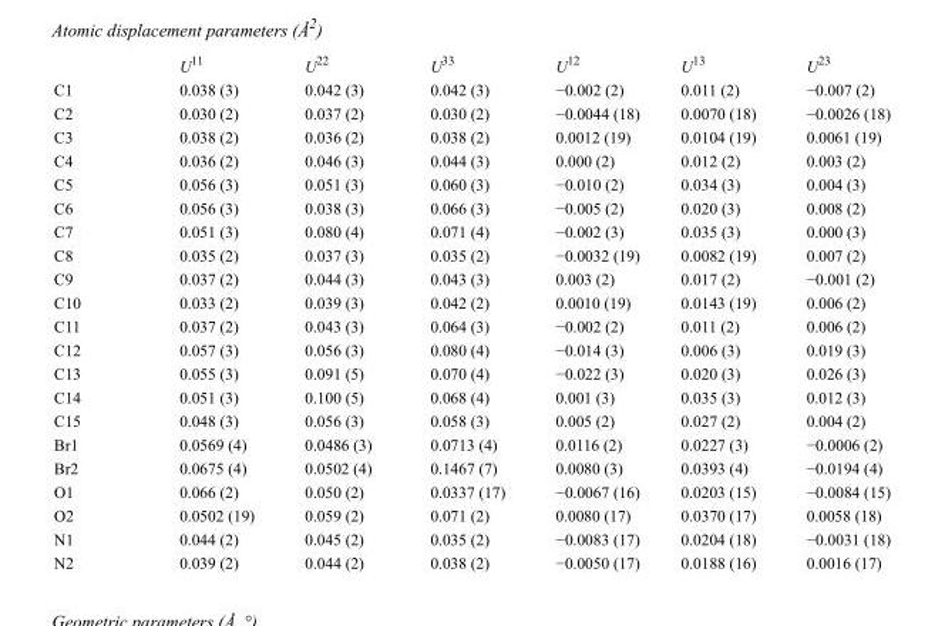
<table><thead><tr><td></td><td>U<sup>11</sup></td><td>U<sup>22</sup></td><td>U<sup>33</sup></td><td>U<sup>12</sup></td><td>U<sup>13</sup></td><td>U<sup>23</sup></td></tr></thead><tbody><tr><td>C1</td><td>0.038 (3)</td><td>0.042 (3)</td><td>0.042 (3)</td><td>−0.002 (2)</td><td>0.011 (2)</td><td>−0.007 (2)</td></tr><tr><td>C2</td><td>0.030 (2)</td><td>0.037 (2)</td><td>0.030 (2)</td><td>−0.0044 (18)</td><td>0.0070 (18)</td><td>−0.0026 (18)</td></tr><tr><td>C3</td><td>0.038 (2)</td><td>0.036 (2)</td><td>0.038 (2)</td><td>0.0012 (19)</td><td>0.0104 (19)</td><td>0.0061 (19)</td></tr><tr><td>C4</td><td>0.036 (2)</td><td>0.046 (3)</td><td>0.044 (3)</td><td>0.000 (2)</td><td>0.012 (2)</td><td>0.003 (2)</td></tr><tr><td>C5</td><td>0.056 (3)</td><td>0.051 (3)</td><td>0.060 (3)</td><td>−0.010 (2)</td><td>0.034 (3)</td><td>0.004 (3)</td></tr><tr><td>C6</td><td>0.056 (3)</td><td>0.038 (3)</td><td>0.066 (3)</td><td>−0.005 (2)</td><td>0.020 (3)</td><td>0.008 (2)</td></tr><tr><td>C7</td><td>0.051 (3)</td><td>0.080 (4)</td><td>0.071 (4)</td><td>−0.002 (3)</td><td>0.035 (3)</td><td>0.000 (3)</td></tr><tr><td>C8</td><td>0.035 (2)</td><td>0.037 (3)</td><td>0.035 (2)</td><td>−0.0032 (19)</td><td>0.0082 (19)</td><td>0.007 (2)</td></tr><tr><td>C9</td><td>0.037 (2)</td><td>0.044 (3)</td><td>0.043 (3)</td><td>0.003 (2)</td><td>0.017 (2)</td><td>−0.001 (2)</td></tr><tr><td>C10</td><td>0.033 (2)</td><td>0.039 (3)</td><td>0.042 (2)</td><td>0.0010 (19)</td><td>0.0143 (19)</td><td>0.006 (2)</td></tr><tr><td>C11</td><td>0.037 (2)</td><td>0.043 (3)</td><td>0.064 (3)</td><td>−0.002 (2)</td><td>0.011 (2)</td><td>0.006 (2)</td></tr><tr><td>C12</td><td>0.057 (3)</td><td>0.056 (3)</td><td>0.080 (4)</td><td>−0.014 (3)</td><td>0.006 (3)</td><td>0.019 (3)</td></tr><tr><td>C13</td><td>0.055 (3)</td><td>0.091 (5)</td><td>0.070 (4)</td><td>−0.022 (3)</td><td>0.020 (3)</td><td>0.026 (3)</td></tr><tr><td>C14</td><td>0.051 (3)</td><td>0.100 (5)</td><td>0.068 (4)</td><td>0.001 (3)</td><td>0.035 (3)</td><td>0.012 (3)</td></tr><tr><td>C15</td><td>0.048 (3)</td><td>0.056 (3)</td><td>0.058 (3)</td><td>0.005 (2)</td><td>0.027 (2)</td><td>0.004 (2)</td></tr><tr><td>Br1</td><td>0.0569 (4)</td><td>0.0486 (3)</td><td>0.0713 (4)</td><td>0.0116 (2)</td><td>0.0227 (3)</td><td>−0.0006 (2)</td></tr><tr><td>Br2</td><td>0.0675 (4)</td><td>0.0502 (4)</td><td>0.1467 (7)</td><td>0.0080 (3)</td><td>0.0393 (4)</td><td>−0.0194 (4)</td></tr><tr><td>O1</td><td>0.066 (2)</td><td>0.050 (2)</td><td>0.0337 (17)</td><td>−0.0067 (16)</td><td>0.0203 (15)</td><td>−0.0084 (15)</td></tr><tr><td>O2</td><td>0.0502 (19)</td><td>0.059 (2)</td><td>0.071 (2)</td><td>0.0080 (17)</td><td>0.0370 (17)</td><td>0.0058 (18)</td></tr><tr><td>N1</td><td>0.044 (2)</td><td>0.045 (2)</td><td>0.035 (2)</td><td>−0.0083 (17)</td><td>0.0204 (18)</td><td>−0.0031 (18)</td></tr><tr><td>N2</td><td>0.039 (2)</td><td>0.044 (2)</td><td>0.038 (2)</td><td>−0.0050 (17)</td><td>0.0188 (16)</td><td>0.0016 (17)</td></tr></tbody></table>